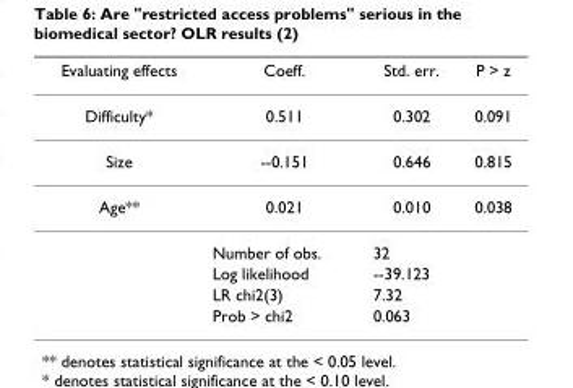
<table><thead><tr><td>Evaluating effects</td><td>Coeff.</td><td>Std. err.</td><td>P &gt; z</td></tr></thead><tbody><tr><td>Difficulty*</td><td>0.511</td><td>0.302</td><td>0.091</td></tr><tr><td>Size</td><td>--0.151</td><td>0.646</td><td>0.815</td></tr><tr><td rowspan="5">Age**</td><td>0.021</td><td>0.010</td><td>0.038</td></tr><tr><td>Number of obs.</td><td>32</td><td></td></tr><tr><td>Log likelihood</td><td>--39.123</td><td></td></tr><tr><td>LR chi2(3)</td><td>7.32</td><td></td></tr><tr><td>Prob &gt; chi2</td><td>0.063</td><td></td></tr></tbody></table>